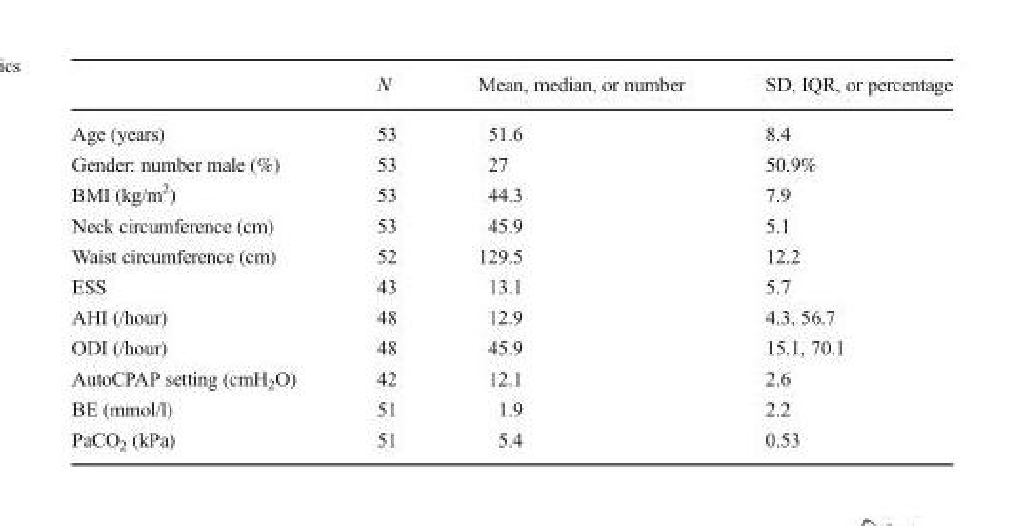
<table><thead><tr><td></td><td>N</td><td>Mean, median, or number</td><td>SD, IQR, or percentage</td></tr></thead><tbody><tr><td>Age (years)</td><td>53</td><td>51.6</td><td>8.4</td></tr><tr><td>Gender: number male (%)</td><td>53</td><td>27</td><td>50.9%</td></tr><tr><td>BMI (kg/m<sup>2</sup>)</td><td>53</td><td>44.3</td><td>7.9</td></tr><tr><td>Neck circumference (cm)</td><td>53</td><td>45.9</td><td>5.1</td></tr><tr><td>Waist circumference (cm)</td><td>52</td><td>129.5</td><td>12.2</td></tr><tr><td>ESS</td><td>43</td><td>13.1</td><td>5.7</td></tr><tr><td>AHI (/hour)</td><td>48</td><td>12.9</td><td>4.3, 56.7</td></tr><tr><td>ODI (/hour)</td><td>48</td><td>45.9</td><td>15.1, 70.1</td></tr><tr><td>AutoCPAP setting (cmH<sub>2</sub>O)</td><td>42</td><td>12.1</td><td>2.6</td></tr><tr><td>BE (mmol/l)</td><td>51</td><td>1.9</td><td>2.2</td></tr><tr><td>PaCO<sub>2</sub> (kPa)</td><td>51</td><td>5.4</td><td>0.53</td></tr></tbody></table>